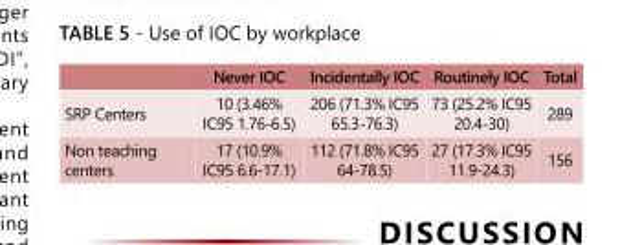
<table><thead><tr><td></td><td>Never IOC</td><td>Incidentally IOC</td><td>Routinely IOC</td><td>Total</td></tr></thead><tbody><tr><td>SRP Centers</td><td>10 (3.46% IC95 1.76-6.5)</td><td>206 (71.3% IC95 65.3-76.3)</td><td>73 (25.2% IC95 20.4-30)</td><td>289</td></tr><tr><td>Non teaching centers</td><td>17 (10.9% IC95 6.6-17.1)</td><td>112 (71.8% IC95 64-78.5)</td><td>27 (17.3% IC95 11.9-24.3)</td><td>156</td></tr></tbody></table>